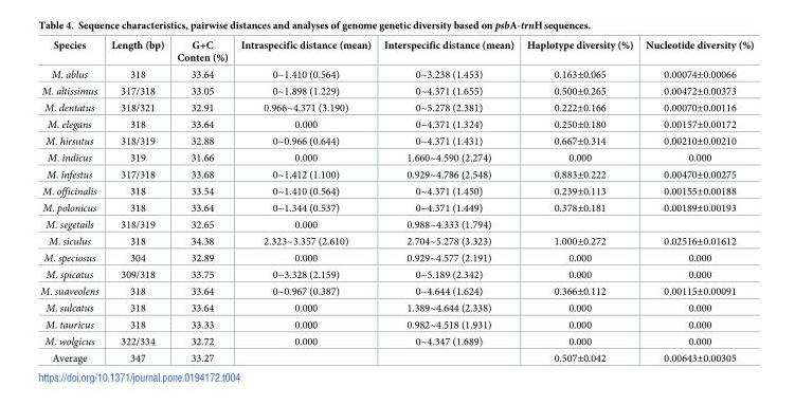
<table><thead><tr><td>Species</td><td>Length (bp)</td><td>G+C Conten (%)</td><td>Intraspecific distance (mean)</td><td>Interspecific distance (mean)</td><td>Haplotype diversity (%)</td><td>Nucleotide diversity (%)</td></tr></thead><tbody><tr><td>M. ablus</td><td>318</td><td>33.64</td><td>0~1.410 (0.564)</td><td>0~3.238 (1.453)</td><td>0.163±0.065</td><td>0.00074±0.00066</td></tr><tr><td>M. altissimus</td><td>317/318</td><td>33.05</td><td>0~1.898 (1.229)</td><td>0~4.371 (1.655)</td><td>0.500±0.265</td><td>0.00472±0.00373</td></tr><tr><td>M. dentatus</td><td>318/321</td><td>32.91</td><td>0.966~4.371 (3.190)</td><td>0~5.278 (2.381)</td><td>0.222±0.166</td><td>0.00070±0.00116</td></tr><tr><td>M. elegans</td><td>318</td><td>33.64</td><td>0.000</td><td>0~4.371 (1.324)</td><td>0.250±0.180</td><td>0.00157±0.00172</td></tr><tr><td>M. hirsutus</td><td>318/319</td><td>32.88</td><td>0~0.966 (0.644)</td><td>0~4.371 (1.431)</td><td>0.667±0.314</td><td>0.00210±0.00210</td></tr><tr><td>M. indicus</td><td>319</td><td>31.66</td><td>0.000</td><td>1.660~4.590 (2.274)</td><td>0.000</td><td>0.000</td></tr><tr><td>M. infestus</td><td>317/318</td><td>33.68</td><td>0~1.412 (1.100)</td><td>0.929~4.786 (2.548)</td><td>0.883±0.222</td><td>0.00470±0.00275</td></tr><tr><td>M. officinalis</td><td>318</td><td>33.54</td><td>0~1.410 (0.564)</td><td>0~4.371 (1.450)</td><td>0.239±0.113</td><td>0.00155±0.00188</td></tr><tr><td>M. polonicus</td><td>318</td><td>33.64</td><td>0~1.344 (0.537)</td><td>0~4.371 (1.449)</td><td>0.378±0.181</td><td>0.00189±0.00193</td></tr><tr><td>M. segetails</td><td>318/319</td><td>32.65</td><td>0.000</td><td>0.988~4.333 (1.794)</td><td></td><td></td></tr><tr><td>M. siculus</td><td>318</td><td>34.38</td><td>2.323~3.357 (2.610)</td><td>2.704~5.278 (3.323)</td><td>1.000±0.272</td><td>0.02516±0.01612</td></tr><tr><td>M. speciosus</td><td>304</td><td>32.89</td><td>0.000</td><td>0.929~4.577 (2.191)</td><td>0.000</td><td>0.000</td></tr><tr><td>M. spicatus</td><td>309/318</td><td>33.75</td><td>0~3.328 (2.159)</td><td>0~5.189 (2.342)</td><td>0.000</td><td>0.000</td></tr><tr><td>M. suaveolens</td><td>318</td><td>33.64</td><td>0~0.967 (0.387)</td><td>0~4.644 (1.624)</td><td>0.366±0.112</td><td>0.00115±0.00091</td></tr><tr><td>M. sulcatus</td><td>318</td><td>33.64</td><td>0.000</td><td>1.389~4.644 (2.338)</td><td>0.000</td><td>0.000</td></tr><tr><td>M. tauricus</td><td>318</td><td>33.33</td><td>0.000</td><td>0.982~4.518 (1.931)</td><td>0.000</td><td>0.000</td></tr><tr><td>M. wolgicus</td><td>322/334</td><td>32.72</td><td>0.000</td><td>0~4.347 (1.689)</td><td>0.000</td><td>0.000</td></tr><tr><td>Average</td><td>347</td><td>33.27</td><td></td><td></td><td>0.507±0.042</td><td>0.00643±0.00305</td></tr></tbody></table>